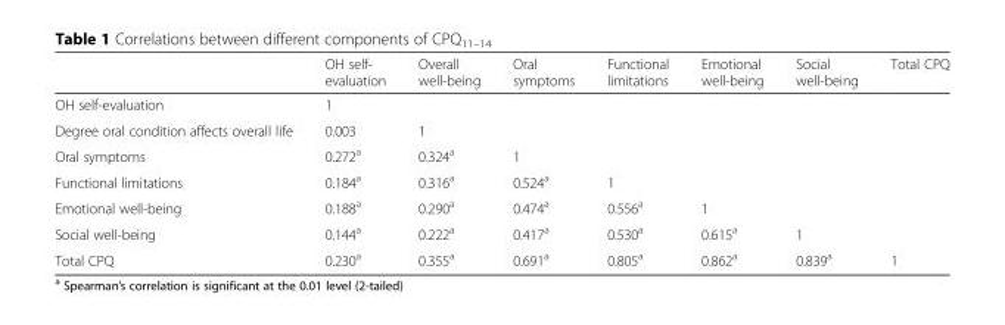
<table><thead><tr><td></td><td>OH self- evaluation</td><td>Overall well-being</td><td>Oral symptoms</td><td>Functional limitations</td><td>Emotional well-being</td><td>Social well-being</td><td>Total CPQ</td></tr></thead><tbody><tr><td>OH self-evaluation</td><td>1</td><td></td><td></td><td></td><td></td><td></td><td></td></tr><tr><td>Degree oral condition affects overall life</td><td>0.003</td><td>1</td><td></td><td></td><td></td><td></td><td></td></tr><tr><td>Oral symptoms</td><td>0.272<sup>a</sup></td><td>0.324<sup>a</sup></td><td>1</td><td></td><td></td><td></td><td></td></tr><tr><td>Functional limitations</td><td>0.184<sup>a</sup></td><td>0.316<sup>a</sup></td><td>0.524<sup>a</sup></td><td>1</td><td></td><td></td><td></td></tr><tr><td>Emotional well-being</td><td>0.188<sup>a</sup></td><td>0.290<sup>a</sup></td><td>0.474<sup>a</sup></td><td>0.556<sup>a</sup></td><td>1</td><td></td><td></td></tr><tr><td>Social well-being</td><td>0.144<sup>a</sup></td><td>0.222<sup>a</sup></td><td>0.417<sup>a</sup></td><td>0.530<sup>a</sup></td><td>0.615<sup>a</sup></td><td>1</td><td></td></tr><tr><td>Total CPQ</td><td>0.230<sup>a</sup></td><td>0.355<sup>a</sup></td><td>0.691<sup>a</sup></td><td>0.805<sup>a</sup></td><td>0.862<sup>a</sup></td><td>0.839<sup>a</sup></td><td>1</td></tr></tbody></table>